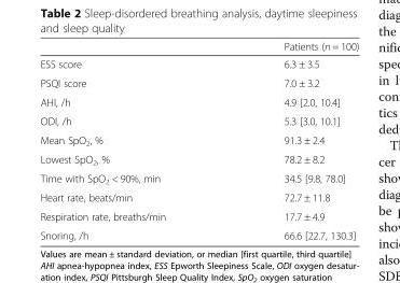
<table><thead><tr><td></td><td>Patients (n = 100)</td></tr></thead><tbody><tr><td>ESS score</td><td>6.3 ± 3.5</td></tr><tr><td>PSQI score</td><td>7.0 ± 3.2</td></tr><tr><td>AHI, /h</td><td>4.9 [2.0, 10.4]</td></tr><tr><td>ODI, /h</td><td>5.3 [3.0, 10.1]</td></tr><tr><td>Mean SpO<sub>2</sub>, %</td><td>91.3 ± 2.4</td></tr><tr><td>Lowest SpO<sub>2</sub>, %</td><td>78.2 ± 8.2</td></tr><tr><td>Time with SpO<sub>2</sub> &lt; 90%, min</td><td>34.5 [9.8, 78.0]</td></tr><tr><td>Heart rate, beats/min</td><td>72.7 ± 11.8</td></tr><tr><td>Respiration rate, breaths/min</td><td>17.7 ± 4.9</td></tr><tr><td>Snoring, /h</td><td>66.6 [22.7, 130.3]</td></tr></tbody></table>